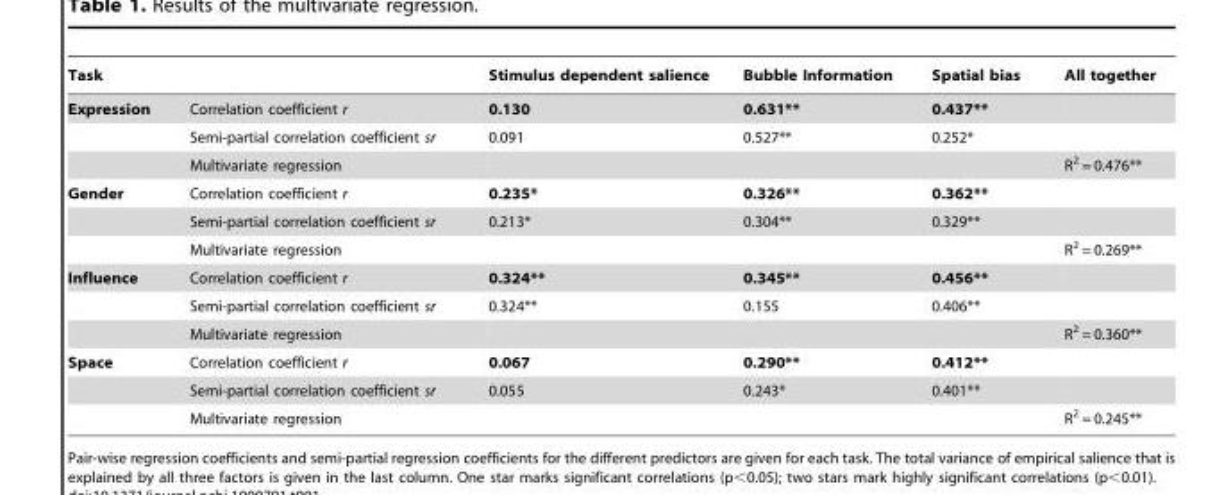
<table><thead><tr><td>Task</td><td></td><td>Stimulus dependent salience</td><td>Bubble Information</td><td>Spatial bias</td><td>All together</td></tr></thead><tbody><tr><td rowspan="3">Expression</td><td>Correlation coefficient r</td><td>0.130</td><td>0.631**</td><td>0.437**</td><td></td></tr><tr><td>Semi-partial correlation coefficient sr</td><td>0.091</td><td>0.527**</td><td>0.252*</td><td></td></tr><tr><td>Multivariate regression</td><td colspan="3"></td><td>R<sup>2</sup> = 0.476**</td></tr><tr><td rowspan="3">Gender</td><td>Correlation coefficient r</td><td>0.235*</td><td>0.326**</td><td>0.362**</td><td></td></tr><tr><td>Semi-partial correlation coefficient sr</td><td>0.213*</td><td>0.304**</td><td>0.329**</td><td></td></tr><tr><td>Multivariate regression</td><td colspan="3"></td><td>R<sup>2</sup> = 0.269**</td></tr><tr><td rowspan="3">Influence</td><td>Correlation coefficient r</td><td>0.324**</td><td>0.345**</td><td>0.456**</td><td></td></tr><tr><td>Semi-partial correlation coefficient sr</td><td>0.324**</td><td>0.155</td><td>0.406**</td><td></td></tr><tr><td>Multivariate regression</td><td colspan="3"></td><td>R<sup>2</sup> = 0.360**</td></tr><tr><td rowspan="3">Space</td><td>Correlation coefficient r</td><td>0.067</td><td>0.290**</td><td>0.412**</td><td></td></tr><tr><td>Semi-partial correlation coefficient sr</td><td>0.055</td><td>0.243*</td><td>0.401**</td><td></td></tr><tr><td>Multivariate regression</td><td colspan="3"></td><td>R<sup>2</sup> = 0.245**</td></tr></tbody></table>